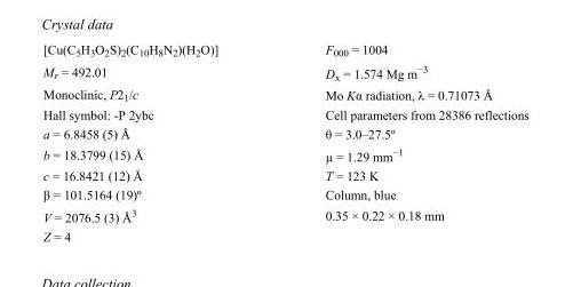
<table><tbody><tr><td>[Cu(C<sub>5</sub>H<sub>3</sub>O<sub>2</sub>S)<sub>2</sub>(C<sub>10</sub>H<sub>8</sub>N<sub>2</sub>)(H<sub>2</sub>O)]</td><td>F000 = 1004</td></tr><tr><td>M<sub>r</sub> = 492.01</td><td>D<sub>x</sub> = 1.574 Mg m<sup>−3</sup></td></tr><tr><td>Monoclinic, P2<sub>1</sub>/c</td><td>Mo Kα radiation, λ = 0.71073 Å</td></tr><tr><td>Hall symbol: -P 2ybc</td><td>Cell parameters from 28386 reflections</td></tr><tr><td>a = 6.8458 (5) Å</td><td>θ = 3.0–27.5º</td></tr><tr><td>b = 18.3799 (15) Å</td><td>µ = 1.29 mm<sup>−1</sup></td></tr><tr><td>c = 16.8421 (12) Å</td><td>T = 123 K</td></tr><tr><td>β = 101.5164 (19)º</td><td>Column, blue</td></tr><tr><td>V = 2076.5 (3) Å<sup>3</sup></td><td>0.35 × 0.22 × 0.18 mm</td></tr><tr><td>Z = 4</td><td></td></tr></tbody></table>